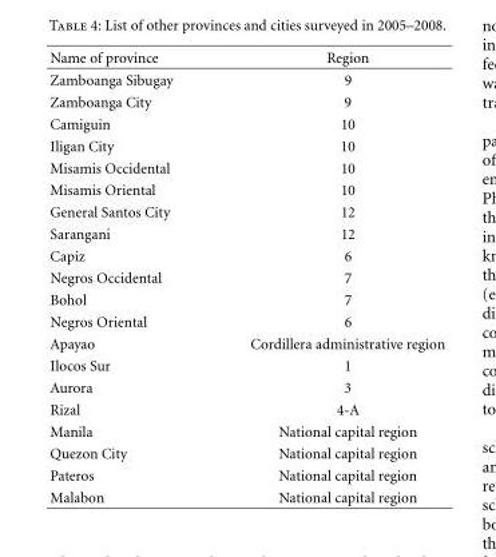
<table><thead><tr><td>Name of province</td><td>Region</td></tr></thead><tbody><tr><td>Zamboanga Sibugay</td><td>9</td></tr><tr><td>Zamboanga City</td><td>9</td></tr><tr><td>Camiguin</td><td>10</td></tr><tr><td>Iligan City</td><td>10</td></tr><tr><td>Misamis Occidental</td><td>10</td></tr><tr><td>Misamis Oriental</td><td>10</td></tr><tr><td>General Santos City</td><td>12</td></tr><tr><td>Sarangani</td><td>12</td></tr><tr><td>Capiz</td><td>6</td></tr><tr><td>Negros Occidental</td><td>7</td></tr><tr><td>Bohol</td><td>7</td></tr><tr><td>Negros Oriental</td><td>6</td></tr><tr><td>Apayao</td><td>Cordillera administrative region</td></tr><tr><td>Ilocos Sur</td><td>1</td></tr><tr><td>Aurora</td><td>3</td></tr><tr><td>Rizal</td><td>4-A</td></tr><tr><td>Manila</td><td>National capital region</td></tr><tr><td>Quezon City</td><td>National capital region</td></tr><tr><td>Pateros</td><td>National capital region</td></tr><tr><td>Malabon</td><td>National capital region</td></tr></tbody></table>